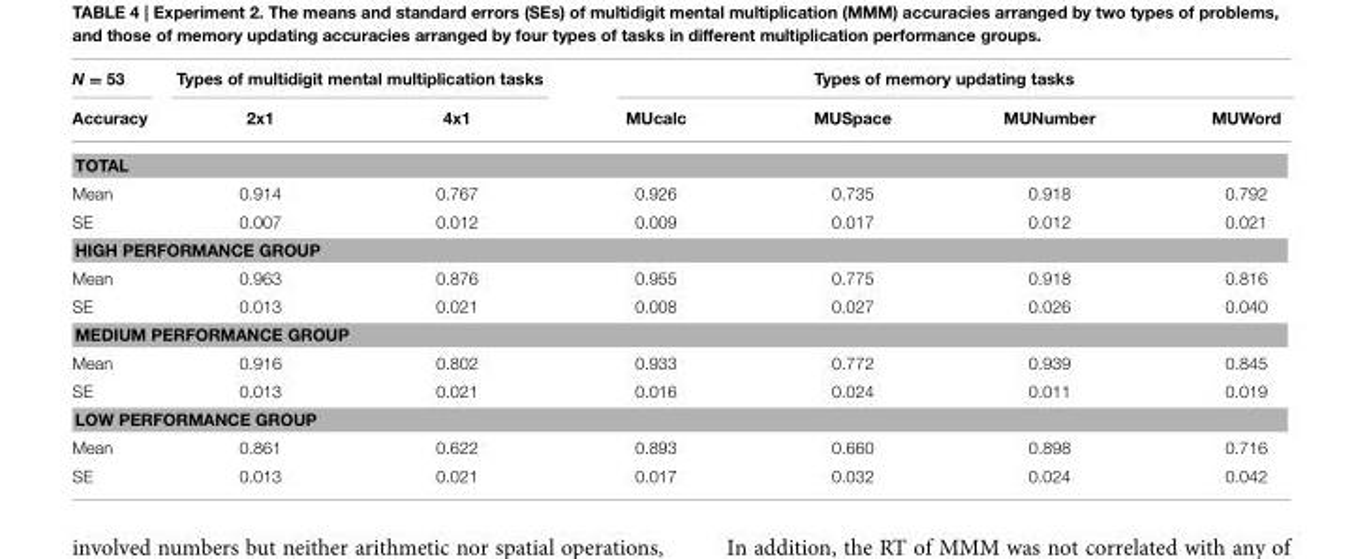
<table><thead><tr><td rowspan="2">N = 53 Accuracy</td><td colspan="2">Types of multidigit mental multiplication tasks</td><td colspan="4">Types of memory updating tasks</td></tr><tr><td>2x1</td><td>4x1</td><td>MUcalc</td><td>MUSpace</td><td>MUNumber</td><td>MUWord</td></tr></thead><tbody><tr><td colspan="7">TOTAL</td></tr><tr><td>Mean</td><td>0.914</td><td>0.767</td><td>0.926</td><td>0.735</td><td>0.918</td><td>0.792</td></tr><tr><td>SE</td><td>0.007</td><td>0.012</td><td>0.009</td><td>0.017</td><td>0.012</td><td>0.021</td></tr><tr><td colspan="7">HIGH PERFORMANCE GROUP</td></tr><tr><td>Mean</td><td>0.963</td><td>0.876</td><td>0.955</td><td>0.775</td><td>0.918</td><td>0.816</td></tr><tr><td>SE</td><td>0.013</td><td>0.021</td><td>0.008</td><td>0.027</td><td>0.026</td><td>0.040</td></tr><tr><td colspan="7">MEDIUM PERFORMANCE GROUP</td></tr><tr><td>Mean</td><td>0.916</td><td>0.802</td><td>0.933</td><td>0.772</td><td>0.939</td><td>0.845</td></tr><tr><td>SE</td><td>0.013</td><td>0.021</td><td>0.016</td><td>0.024</td><td>0.011</td><td>0.019</td></tr><tr><td colspan="7">LOW PERFORMANCE GROUP</td></tr><tr><td>Mean</td><td>0.861</td><td>0.622</td><td>0.893</td><td>0.660</td><td>0.898</td><td>0.716</td></tr><tr><td>SE</td><td>0.013</td><td>0.021</td><td>0.017</td><td>0.032</td><td>0.024</td><td>0.042</td></tr></tbody></table>